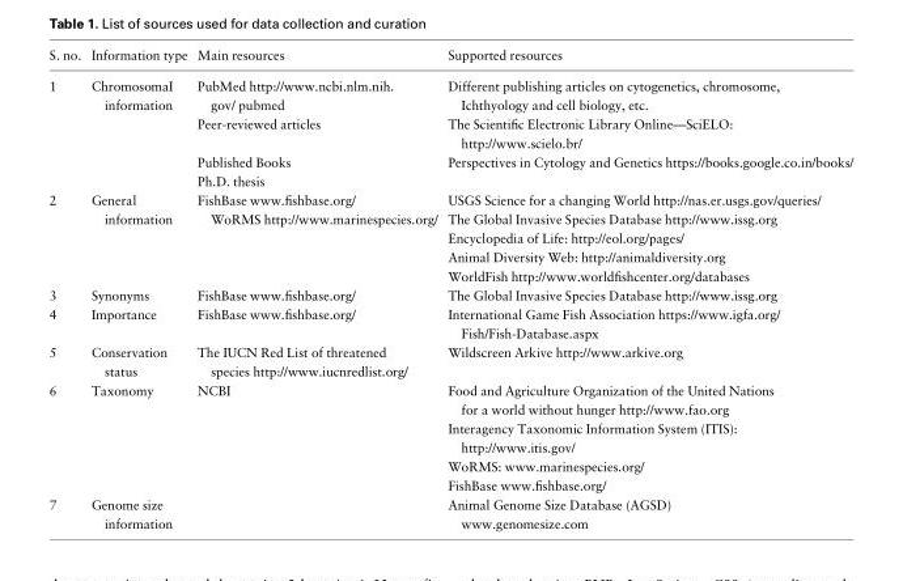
<table><thead><tr><td>S. no.</td><td>Information type</td><td>Main resources</td><td>Supported resources</td></tr></thead><tbody><tr><td rowspan="4">1</td><td>ChromosomaI information</td><td>PubMed http://www.ncbi.nlm.nih. gov/ pubmed</td><td>Different publishing articles on cytogenetics, chromosome, Ichthyology and cell biology, etc.</td></tr><tr><td rowspan="3"></td><td>Peer-reviewed articles</td><td>The Scientific Electronic Library Online—SciELO: http://www.scielo.br/</td></tr><tr><td>Published Books</td><td>Perspectives in Cytology and Genetics https://books.google.co.in/books/</td></tr><tr><td>Ph.D. thesis</td><td></td></tr><tr><td rowspan="5">2</td><td rowspan="5">General information</td><td rowspan="5">FishBase www.fishbase.org/ WoRMS http://www.marinespecies.org/</td><td>USGS Science for a changing World http://nas.er.usgs.gov/queries/</td></tr><tr><td>The Global Invasive Species Database http://www.issg.org</td></tr><tr><td>Encyclopedia of Life: http://eol.org/pages/</td></tr><tr><td>Animal Diversity Web: http://animaldiversity.org</td></tr><tr><td>WorldFish http://www.worldfishcenter.org/databases</td></tr><tr><td>3</td><td>Synonyms</td><td>FishBase www.fishbase.org/</td><td>The Global Invasive Species Database http://www.issg.org</td></tr><tr><td>4</td><td>Importance</td><td>FishBase www.fishbase.org/</td><td>International Game Fish Association https://www.igfa.org/ Fish/Fish-Database.aspx</td></tr><tr><td>5</td><td>Conservation status</td><td>The IUCN Red List of threatened species http://www.iucnredlist.org/</td><td>Wildscreen Arkive http://www.arkive.org</td></tr><tr><td rowspan="4">6</td><td rowspan="4">Taxonomy</td><td rowspan="4">NCBI</td><td>Food and Agriculture Organization of the United Nations for a world without hunger http://www.fao.org</td></tr><tr><td>Interagency Taxonomic Information System (ITIS): http://www.itis.gov/</td></tr><tr><td>WoRMS: www.marinespecies.org/</td></tr><tr><td>FishBase www.fishbase.org/</td></tr><tr><td>7</td><td>Genome size information</td><td></td><td>Animal Genome Size Database (AGSD) www.genomesize.com</td></tr></tbody></table>